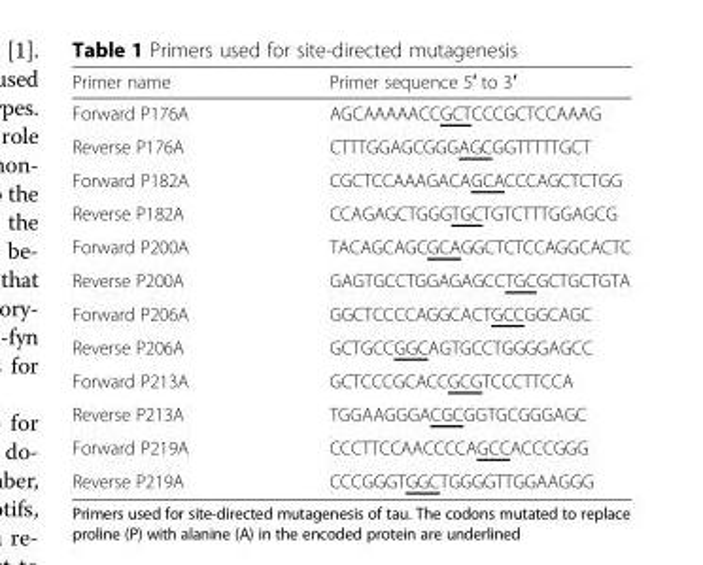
<table><thead><tr><td>Primer name</td><td>Primer sequence 5′ to 3′</td></tr></thead><tbody><tr><td>Forward P176A</td><td>AGCAAAAACCGCTCCCGCTCCAAAG</td></tr><tr><td>Reverse P176A</td><td>CTTTGGAGCGGGAGCGGTTTTTGCT</td></tr><tr><td>Forward P182A</td><td>CGCTCCAAAGACAGCACCCAGCTCTGG</td></tr><tr><td>Reverse P182A</td><td>CCAGAGCTGGGTGCTGTCTTTGGAGCG</td></tr><tr><td>Forward P200A</td><td>TACAGCAGCGCAGGCTCTCCAGGCACTC</td></tr><tr><td>Reverse P200A</td><td>GAGTGCCTGGAGAGCCTGCGCTGCTGTA</td></tr><tr><td>Forward P206A</td><td>GGCTCCCCAGGCACTGCCGGCAGC</td></tr><tr><td>Reverse P206A</td><td>GCTGCCGGCAGTGCCTGGGGAGCC</td></tr><tr><td>Forward P213A</td><td>GCTCCCGCACCGCGTCCCTTCCA</td></tr><tr><td>Reverse P213A</td><td>TGGAAGGGACGCGGTGCGGGAGC</td></tr><tr><td>Forward P219A</td><td>CCCTTCCAACCCCAGCCACCCGGG</td></tr><tr><td>Reverse P219A</td><td>CCCGGGTGGCTGGGGTTGGAAGGG</td></tr></tbody></table>